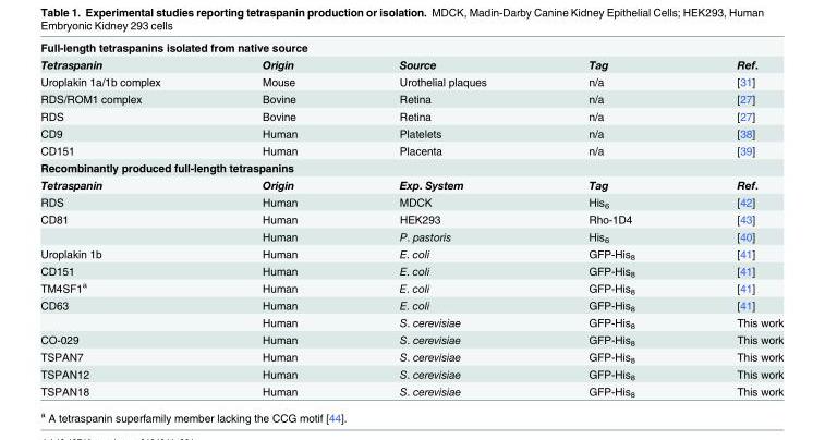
<table><tbody><tr><td colspan="5">Full-length tetraspanins isolated from native source</td></tr><tr><td>Tetraspanin</td><td>Origin</td><td>Source</td><td>Tag</td><td>Ref.</td></tr><tr><td>Uroplakin 1a/1b complex</td><td>Mouse</td><td>Urothelial plaques</td><td>n/a</td><td>[31]</td></tr><tr><td>RDS/ROM1 complex</td><td>Bovine</td><td>Retina</td><td>n/a</td><td>[27]</td></tr><tr><td>RDS</td><td>Bovine</td><td>Retina</td><td>n/a</td><td>[27]</td></tr><tr><td>CD9</td><td>Human</td><td>Platelets</td><td>n/a</td><td>[38]</td></tr><tr><td>CD151</td><td>Human</td><td>Placenta</td><td>n/a</td><td>[39]</td></tr><tr><td colspan="5">Recombinantly produced full-length tetraspanins</td></tr><tr><td>Tetraspanin</td><td>Origin</td><td>Exp. System</td><td>Tag</td><td>Ref.</td></tr><tr><td>RDS</td><td>Human</td><td>MDCK</td><td>His<sub>6</sub></td><td>[42]</td></tr><tr><td rowspan="2">CD81</td><td>Human</td><td>HEK293</td><td>Rho-1D4</td><td>[43]</td></tr><tr><td>Human</td><td>P. pastoris</td><td>His<sub>6</sub></td><td>[40]</td></tr><tr><td>Uroplakin 1b</td><td>Human</td><td>E. coli</td><td>GFP-His<sub>8</sub></td><td>[41]</td></tr><tr><td>CD151</td><td>Human</td><td>E. coli</td><td>GFP-His<sub>8</sub></td><td>[41]</td></tr><tr><td>TM4SF1<sup>a</sup></td><td>Human</td><td>E. coli</td><td>GFP-His<sub>8</sub></td><td>[41]</td></tr><tr><td rowspan="2">CD63</td><td>Human</td><td>E. coli</td><td>GFP-His<sub>8</sub></td><td>[41]</td></tr><tr><td>Human</td><td>S. cerevisiae</td><td>GFP-His<sub>8</sub></td><td>This work</td></tr><tr><td>CO-029</td><td>Human</td><td>S. cerevisiae</td><td>GFP-His<sub>8</sub></td><td>This work</td></tr><tr><td>TSPAN7</td><td>Human</td><td>S. cerevisiae</td><td>GFP-His<sub>8</sub></td><td>This work</td></tr><tr><td>TSPAN12</td><td>Human</td><td>S. cerevisiae</td><td>GFP-His<sub>8</sub></td><td>This work</td></tr><tr><td>TSPAN18</td><td>Human</td><td>S. cerevisiae</td><td>GFP-His<sub>8</sub></td><td>This work</td></tr></tbody></table>